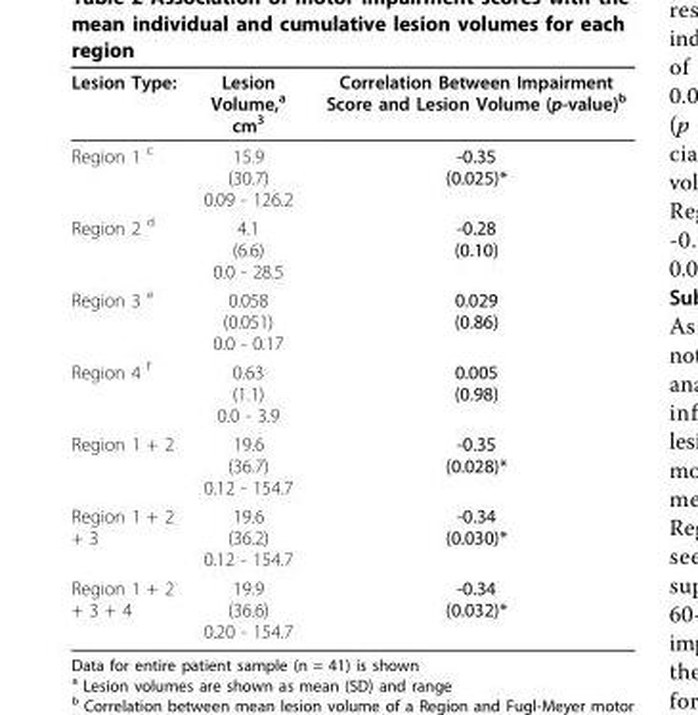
<table><thead><tr><td>Lesion Type:</td><td>Lesion Volume,<sup>a</sup> cm<sup>3</sup></td><td>Correlation Between Impairment Score and Lesion Volume (p-value)<sup>b</sup></td></tr></thead><tbody><tr><td>Region 1 <sup>c</sup></td><td>15.9 (30.7) 0.09 - 126.2</td><td>-0.35 (0.025)*</td></tr><tr><td>Region 2 <sup>d</sup></td><td>4.1 (6.6) 0.0 - 28.5</td><td>-0.28 (0.10)</td></tr><tr><td>Region 3 <sup>e</sup></td><td>0.058 (0.051) 0.0 - 0.17</td><td>0.029 (0.86)</td></tr><tr><td>Region 4 <sup>f</sup></td><td>0.63 (1.1) 0.0 - 3.9</td><td>0.005 (0.98)</td></tr><tr><td>Region 1 + 2</td><td>19.6 (36.7) 0.12 - 154.7</td><td>-0.35 (0.028)*</td></tr><tr><td>Region 1 + 2 + 3</td><td>19.6 (36.2) 0.12 - 154.7</td><td>-0.34 (0.030)*</td></tr><tr><td>Region 1 + 2 + 3 + 4</td><td>19.9 (36.6) 0.20 - 154.7</td><td>-0.34 (0.032)*</td></tr></tbody></table>